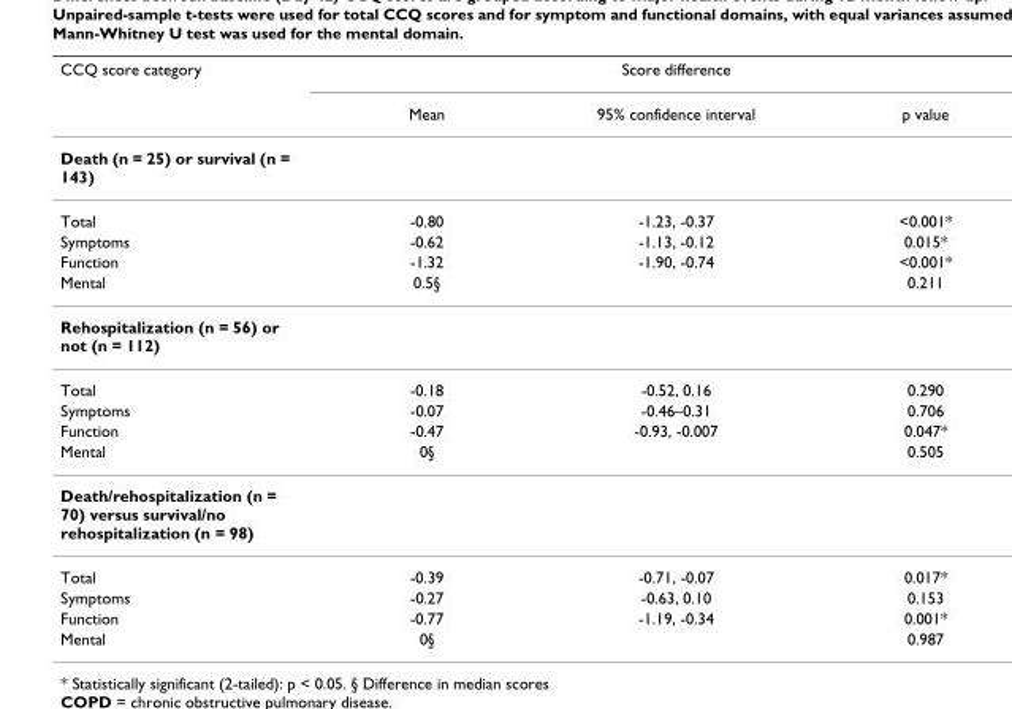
<table><thead><tr><td rowspan="2">CCQ score category</td><td colspan="3">Score difference</td></tr><tr><td>Mean</td><td>95% confidence interval</td><td>p value</td></tr></thead><tbody><tr><td colspan="4">Death (n = 25) or survival (n = 143)</td></tr><tr><td>Total</td><td>-0.80</td><td>-1.23, -0.37</td><td>&lt;0.001*</td></tr><tr><td>Symptoms</td><td>-0.62</td><td>-1.13, -0.12</td><td>0.015*</td></tr><tr><td>Function</td><td>-1.32</td><td>-1.90, -0.74</td><td>&lt;0.001*</td></tr><tr><td>Mental</td><td>0.5§</td><td></td><td>0.211</td></tr><tr><td colspan="4">Rehospitalization (n = 56) or not (n = 112)</td></tr><tr><td>Total</td><td>-0.18</td><td>-0.52, 0.16</td><td>0.290</td></tr><tr><td>Symptoms</td><td>-0.07</td><td>-0.46–0.31</td><td>0.706</td></tr><tr><td>Function</td><td>-0.47</td><td>-0.93, -0.007</td><td>0.047*</td></tr><tr><td>Mental</td><td>0§</td><td></td><td>0.505</td></tr><tr><td colspan="4">Death/rehospitalization (n = 70) versus survival/no rehospitalization (n = 98)</td></tr><tr><td>Total</td><td>-0.39</td><td>-0.71, -0.07</td><td>0.017*</td></tr><tr><td>Symptoms</td><td>-0.27</td><td>-0.63, 0.10</td><td>0.153</td></tr><tr><td>Function</td><td>-0.77</td><td>-1.19, -0.34</td><td>0.001*</td></tr><tr><td>Mental</td><td>0§</td><td></td><td>0.987</td></tr></tbody></table>